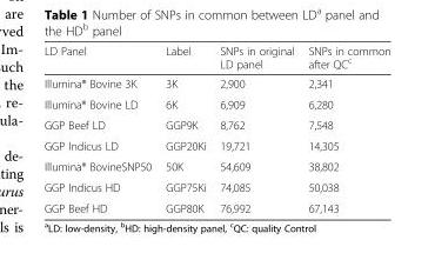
<table><thead><tr><td>LD Panel</td><td>Label</td><td>SNPs in original LD panel</td><td>SNPs in common after QC<sup>c</sup></td></tr></thead><tbody><tr><td>Illumina® Bovine 3K</td><td>3K</td><td>2,900</td><td>2,341</td></tr><tr><td>Illumina® Bovine LD</td><td>6K</td><td>6,909</td><td>6,280</td></tr><tr><td>GGP Beef LD</td><td>GGP9K</td><td>8,762</td><td>7,548</td></tr><tr><td>GGP Indicus LD</td><td>GGP20Ki</td><td>19,721</td><td>14,305</td></tr><tr><td>Illumina® BovineSNP50</td><td>50K</td><td>54,609</td><td>38,802</td></tr><tr><td>GGP Indicus HD</td><td>GGP75Ki</td><td>74,085</td><td>50,038</td></tr><tr><td>GGP Beef HD</td><td>GGP80K</td><td>76,992</td><td>67,143</td></tr></tbody></table>